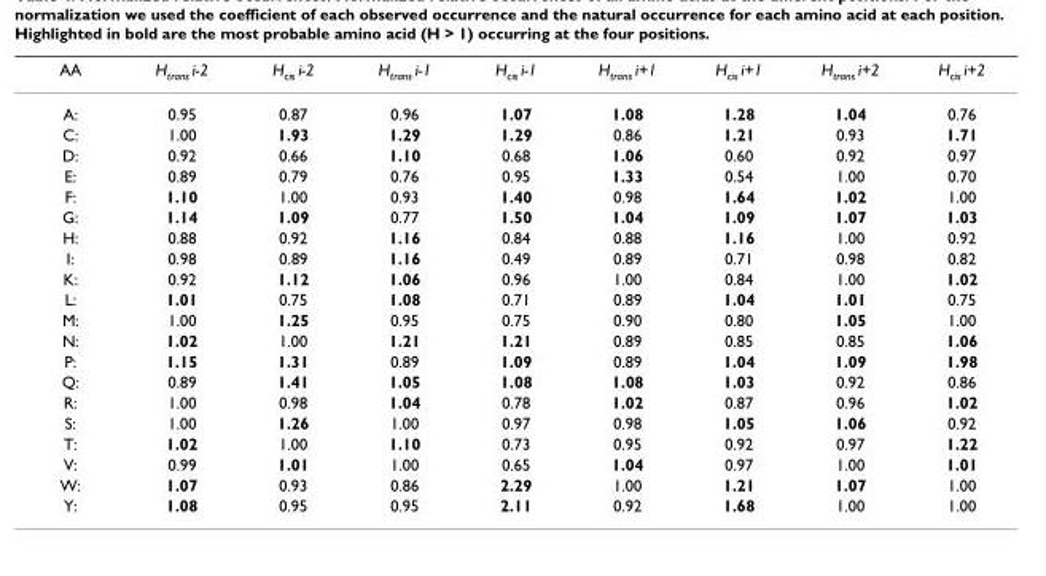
<table><thead><tr><td>AA</td><td>Htrans i-2</td><td>Hcis i-2</td><td>Htrans i-1</td><td>Hcis i-1</td><td>Htrans i+1</td><td>Hcis i+1</td><td>Htrans i+2</td><td>Hcis i+2</td></tr></thead><tbody><tr><td>A:</td><td>0.95</td><td>0.87</td><td>0.96</td><td>1.07</td><td>1.08</td><td>1.28</td><td>1.04</td><td>0.76</td></tr><tr><td>C:</td><td>1.00</td><td>1.93</td><td>1.29</td><td>1.29</td><td>0.86</td><td>1.21</td><td>0.93</td><td>1.71</td></tr><tr><td>D:</td><td>0.92</td><td>0.66</td><td>1.10</td><td>0.68</td><td>1.06</td><td>0.60</td><td>0.92</td><td>0.97</td></tr><tr><td>E:</td><td>0.89</td><td>0.79</td><td>0.76</td><td>0.95</td><td>1.33</td><td>0.54</td><td>1.00</td><td>0.70</td></tr><tr><td>F:</td><td>1.10</td><td>1.00</td><td>0.93</td><td>1.40</td><td>0.98</td><td>1.64</td><td>1.02</td><td>1.00</td></tr><tr><td>G:</td><td>1.14</td><td>1.09</td><td>0.77</td><td>1.50</td><td>1.04</td><td>1.09</td><td>1.07</td><td>1.03</td></tr><tr><td>H:</td><td>0.88</td><td>0.92</td><td>1.16</td><td>0.84</td><td>0.88</td><td>1.16</td><td>1.00</td><td>0.92</td></tr><tr><td>I:</td><td>0.98</td><td>0.89</td><td>1.16</td><td>0.49</td><td>0.89</td><td>0.71</td><td>0.98</td><td>0.82</td></tr><tr><td>K:</td><td>0.92</td><td>1.12</td><td>1.06</td><td>0.96</td><td>1.00</td><td>0.84</td><td>1.00</td><td>1.02</td></tr><tr><td>L:</td><td>1.01</td><td>0.75</td><td>1.08</td><td>0.71</td><td>0.89</td><td>1.04</td><td>1.01</td><td>0.75</td></tr><tr><td>M:</td><td>1.00</td><td>1.25</td><td>0.95</td><td>0.75</td><td>0.90</td><td>0.80</td><td>1.05</td><td>1.00</td></tr><tr><td>N:</td><td>1.02</td><td>1.00</td><td>1.21</td><td>1.21</td><td>0.89</td><td>0.85</td><td>0.85</td><td>1.06</td></tr><tr><td>P:</td><td>1.15</td><td>1.31</td><td>0.89</td><td>1.09</td><td>0.89</td><td>1.04</td><td>1.09</td><td>1.98</td></tr><tr><td>Q:</td><td>0.89</td><td>1.41</td><td>1.05</td><td>1.08</td><td>1.08</td><td>1.03</td><td>0.92</td><td>0.86</td></tr><tr><td>R:</td><td>1.00</td><td>0.98</td><td>1.04</td><td>0.78</td><td>1.02</td><td>0.87</td><td>0.96</td><td>1.02</td></tr><tr><td>S:</td><td>1.00</td><td>1.26</td><td>1.00</td><td>0.97</td><td>0.98</td><td>1.05</td><td>1.06</td><td>0.92</td></tr><tr><td>T:</td><td>1.02</td><td>1.00</td><td>1.10</td><td>0.73</td><td>0.95</td><td>0.92</td><td>0.97</td><td>1.22</td></tr><tr><td>V:</td><td>0.99</td><td>1.01</td><td>1.00</td><td>0.65</td><td>1.04</td><td>0.97</td><td>1.00</td><td>1.01</td></tr><tr><td>W:</td><td>1.07</td><td>0.93</td><td>0.86</td><td>2.29</td><td>1.00</td><td>1.21</td><td>1.07</td><td>1.00</td></tr><tr><td>Y:</td><td>1.08</td><td>0.95</td><td>0.95</td><td>2.11</td><td>0.92</td><td>1.68</td><td>1.00</td><td>1.00</td></tr></tbody></table>